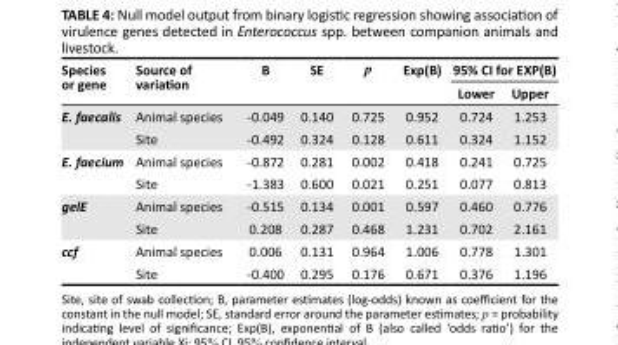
<table><thead><tr><td rowspan="2">Species or gene</td><td rowspan="2">Source of variation</td><td rowspan="2">B</td><td rowspan="2">SE</td><td rowspan="2">p</td><td rowspan="2">Exp(B)</td><td colspan="2">95% CI for EXP(B)</td></tr><tr><td>Lower</td><td>Upper</td></tr></thead><tbody><tr><td rowspan="2">E. faecalis</td><td>Animal species</td><td>-0.049</td><td>0.140</td><td>0.725</td><td>0.952</td><td>0.724</td><td>1.253</td></tr><tr><td>Site</td><td>-0.492</td><td>0.324</td><td>0.128</td><td>0.611</td><td>0.324</td><td>1.152</td></tr><tr><td rowspan="2">E. faecium</td><td>Animal species</td><td>-0.872</td><td>0.281</td><td>0.002</td><td>0.418</td><td>0.241</td><td>0.725</td></tr><tr><td>Site</td><td>-1.383</td><td>0.600</td><td>0.021</td><td>0.251</td><td>0.077</td><td>0.813</td></tr><tr><td rowspan="2">gelE</td><td>Animal species</td><td>-0.515</td><td>0.134</td><td>0.001</td><td>0.597</td><td>0.460</td><td>0.776</td></tr><tr><td>Site</td><td>0.208</td><td>0.287</td><td>0.468</td><td>1.231</td><td>0.702</td><td>2.161</td></tr><tr><td rowspan="2">ccf</td><td>Animal species</td><td>0.006</td><td>0.131</td><td>0.964</td><td>1.006</td><td>0.778</td><td>1.301</td></tr><tr><td>Site</td><td>-0.400</td><td>0.295</td><td>0.176</td><td>0.671</td><td>0.376</td><td>1.196</td></tr></tbody></table>